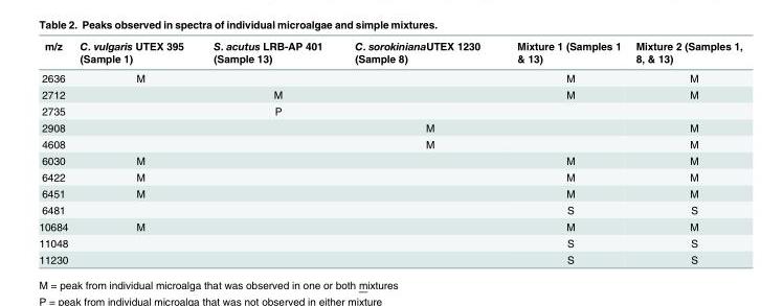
<table><thead><tr><td>m/z</td><td>C. vulgaris UTEX 395 (Sample 1)</td><td>S. acutus LRB-AP 401 (Sample 13)</td><td>C. sorokinianaUTEX 1230 (Sample 8)</td><td>Mixture 1 (Samples 1 &amp; 13)</td><td>Mixture 2 (Samples 1, 8, &amp; 13)</td></tr></thead><tbody><tr><td>2636</td><td>M</td><td></td><td></td><td>M</td><td>M</td></tr><tr><td>2712</td><td></td><td>M</td><td></td><td>M</td><td>M</td></tr><tr><td>2735</td><td></td><td>P</td><td></td><td></td><td></td></tr><tr><td>2908</td><td></td><td></td><td>M</td><td></td><td>M</td></tr><tr><td>4608</td><td></td><td></td><td>M</td><td></td><td>M</td></tr><tr><td>6030</td><td>M</td><td></td><td></td><td>M</td><td>M</td></tr><tr><td>6422</td><td>M</td><td></td><td></td><td>M</td><td>M</td></tr><tr><td>6451</td><td>M</td><td></td><td></td><td>M</td><td>M</td></tr><tr><td>6481</td><td></td><td></td><td></td><td>S</td><td>S</td></tr><tr><td>10684</td><td>M</td><td></td><td></td><td>M</td><td>M</td></tr><tr><td>11048</td><td></td><td></td><td></td><td>S</td><td>S</td></tr><tr><td>11230</td><td></td><td></td><td></td><td>S</td><td>S</td></tr></tbody></table>